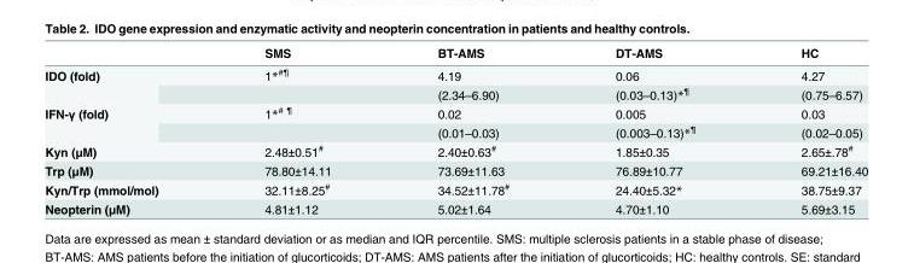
<table><thead><tr><td></td><td>SMS</td><td>BT-AMS</td><td>DT-AMS</td><td>HC</td></tr></thead><tbody><tr><td rowspan="2">IDO (fold)</td><td>1*<sup>#¶</sup></td><td>4.19</td><td>0.06</td><td>4.27</td></tr><tr><td></td><td>(2.34–6.90)</td><td>(0.03–0.13)*<sup>¶</sup></td><td>(0.75–6.57)</td></tr><tr><td rowspan="2">IFN-γ (fold)</td><td>1*<sup># ¶</sup></td><td>0.02</td><td>0.005</td><td>0.03</td></tr><tr><td></td><td>(0.01–0.03)</td><td>(0.003–0.13)*<sup>¶</sup></td><td>(0.02–0.05)</td></tr><tr><td>Kyn (μM)</td><td>2.48±0.51<sup>#</sup></td><td>2.40±0.63<sup>#</sup></td><td>1.85±0.35</td><td>2.65±.78<sup>#</sup></td></tr><tr><td>Trp (μM)</td><td>78.80±14.11</td><td>73.69±11.63</td><td>76.89±10.77</td><td>69.21±16.40</td></tr><tr><td>Kyn/Trp (mmol/mol)</td><td>32.11±8.25<sup>#</sup></td><td>34.52±11.78<sup>#</sup></td><td>24.40±5.32*</td><td>38.75±9.37</td></tr><tr><td>Neopterin (μM)</td><td>4.81±1.12</td><td>5.02±1.64</td><td>4.70±1.10</td><td>5.69±3.15</td></tr></tbody></table>